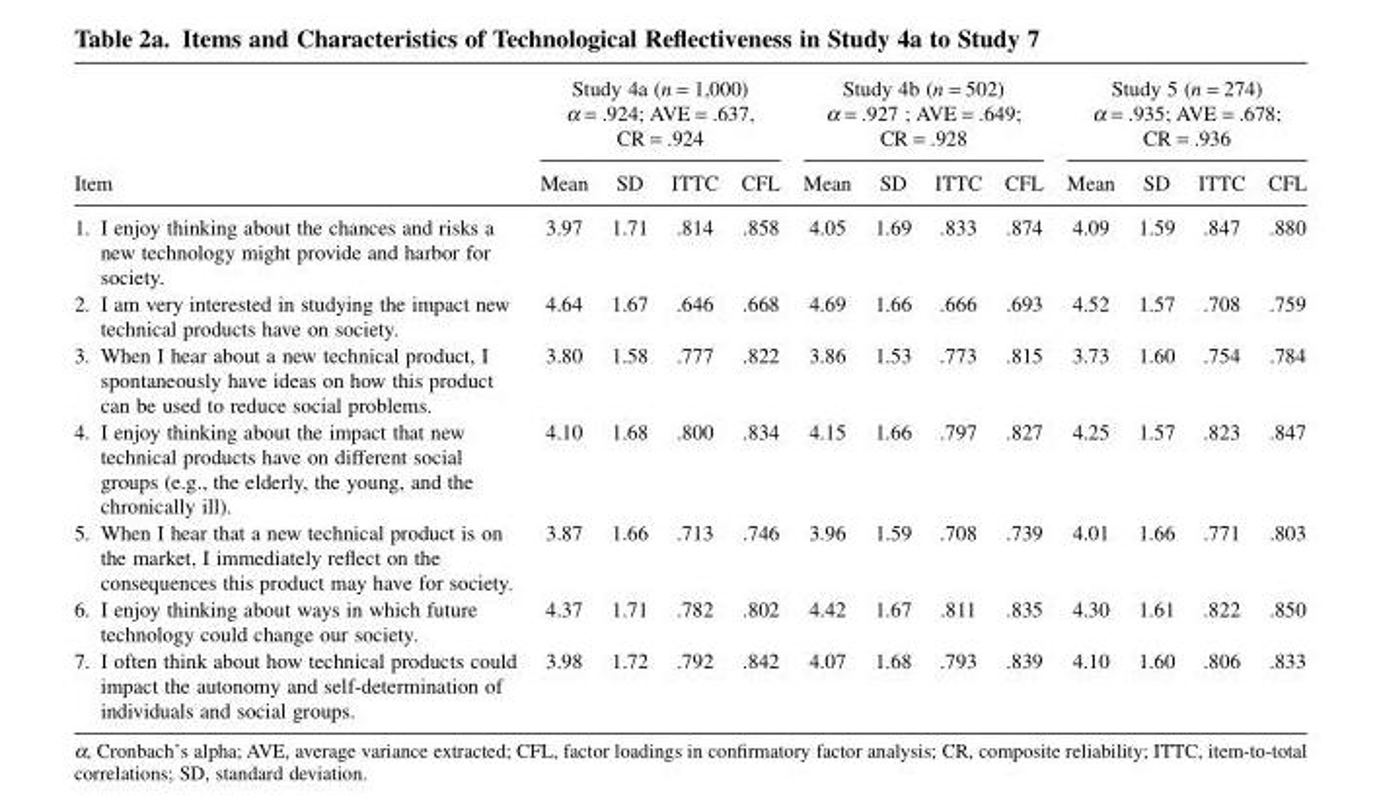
<table><thead><tr><td rowspan="2">Item</td><td colspan="4">Study 4a (n = 1,000) α = .924; AVE = .637, CR = .924</td><td colspan="4">Study 4b (n = 502) α = .927 ; AVE = .649; CR = .928</td><td colspan="4">Study 5 (n = 274) α = .935; AVE = .678; CR = .936</td></tr><tr><td>Mean</td><td>SD</td><td>ITTC</td><td>CFL</td><td>Mean</td><td>SD</td><td>ITTC</td><td>CFL</td><td>Mean</td><td>SD</td><td>ITTC</td><td>CFL</td></tr></thead><tbody><tr><td>1. I enjoy thinking about the chances and risks a new technology might provide and harbor for society.</td><td>3.97</td><td>1.71</td><td>.814</td><td>.858</td><td>4.05</td><td>1.69</td><td>.833</td><td>.874</td><td>4.09</td><td>1.59</td><td>.847</td><td>.880</td></tr><tr><td>2. I am very interested in studying the impact new technical products have on society.</td><td>4.64</td><td>1.67</td><td>.646</td><td>.668</td><td>4.69</td><td>1.66</td><td>.666</td><td>.693</td><td>4.52</td><td>1.57</td><td>.708</td><td>.759</td></tr><tr><td>3. When I hear about a new technical product, I spontaneously have ideas on how this product can be used to reduce social problems.</td><td>3.80</td><td>1.58</td><td>.777</td><td>.822</td><td>3.86</td><td>1.53</td><td>.773</td><td>.815</td><td>3.73</td><td>1.60</td><td>.754</td><td>.784</td></tr><tr><td>4. I enjoy thinking about the impact that new technical products have on different social groups (e.g., the elderly, the young, and the chronically ill).</td><td>4.10</td><td>1.68</td><td>.800</td><td>.834</td><td>4.15</td><td>1.66</td><td>.797</td><td>.827</td><td>4.25</td><td>1.57</td><td>.823</td><td>.847</td></tr><tr><td>5. When I hear that a new technical product is on the market, I immediately reflect on the consequences this product may have for society.</td><td>3.87</td><td>1.66</td><td>.713</td><td>.746</td><td>3.96</td><td>1.59</td><td>.708</td><td>.739</td><td>4.01</td><td>1.66</td><td>.771</td><td>.803</td></tr><tr><td>6. I enjoy thinking about ways in which future technology could change our society.</td><td>4.37</td><td>1.71</td><td>.782</td><td>.802</td><td>4.42</td><td>1.67</td><td>.811</td><td>.835</td><td>4.30</td><td>1.61</td><td>.822</td><td>.850</td></tr><tr><td>7. I often think about how technical products could impact the autonomy and self-determination of individuals and social groups.</td><td>3.98</td><td>1.72</td><td>.792</td><td>.842</td><td>4.07</td><td>1.68</td><td>.793</td><td>.839</td><td>4.10</td><td>1.60</td><td>.806</td><td>.833</td></tr></tbody></table>